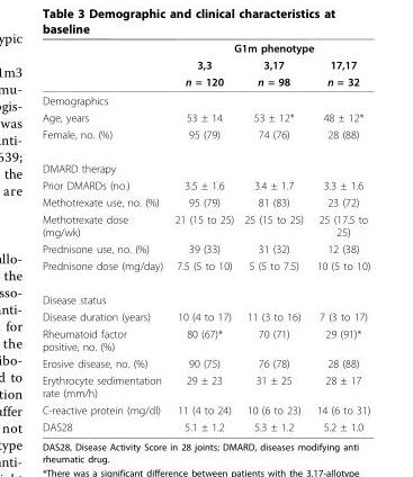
<table><thead><tr><td rowspan="3"></td><td colspan="3">G1m phenotype</td></tr><tr><td rowspan="2">3,3 n = 120</td><td rowspan="2">3,17 n = 98</td><td rowspan="2">17,17 n = 32</td></tr><tr></tr></thead><tbody><tr><td colspan="4">Demographics</td></tr><tr><td>Age, years</td><td>53 ± 14</td><td>53 ± 12*</td><td>48 ± 12*</td></tr><tr><td>Female, no. (%)</td><td>95 (79)</td><td>74 (76)</td><td>28 (88)</td></tr><tr><td colspan="4">DMARD therapy</td></tr><tr><td>Prior DMARDs (no.)</td><td>3.5 ± 1.6</td><td>3.4 ± 1.7</td><td>3.3 ± 1.6</td></tr><tr><td>Methotrexate use, no. (%)</td><td>95 (79)</td><td>81 (83)</td><td>23 (72)</td></tr><tr><td>Methotrexate dose (mg/wk)</td><td>21 (15 to 25)</td><td>25 (15 to 25)</td><td>25 (17.5 to 25)</td></tr><tr><td>Prednisone use, no. (%)</td><td>39 (33)</td><td>31 (32)</td><td>12 (38)</td></tr><tr><td>Prednisone dose (mg/day)</td><td>7.5 (5 to 10)</td><td>5 (5 to 7.5)</td><td>10 (5 to 10)</td></tr><tr><td colspan="4">Disease status</td></tr><tr><td>Disease duration (years)</td><td>10 (4 to 17)</td><td>11 (3 to 16)</td><td>7 (3 to 17)</td></tr><tr><td>Rheumatoid factor positive, no. (%)</td><td>80 (67)*</td><td>70 (71)</td><td>29 (91)*</td></tr><tr><td>Erosive disease, no. (%)</td><td>90 (75)</td><td>76 (78)</td><td>28 (88)</td></tr><tr><td>Erythrocyte sedimentation rate (mm/h)</td><td>29 ± 23</td><td>31 ± 25</td><td>28 ± 17</td></tr><tr><td>C-reactive protein (mg/dl)</td><td>11 (4 to 24)</td><td>10 (6 to 23)</td><td>14 (6 to 31)</td></tr><tr><td>DAS28</td><td>5.1 ± 1.2</td><td>5.3 ± 1.2</td><td>5.2 ± 1.0</td></tr></tbody></table>